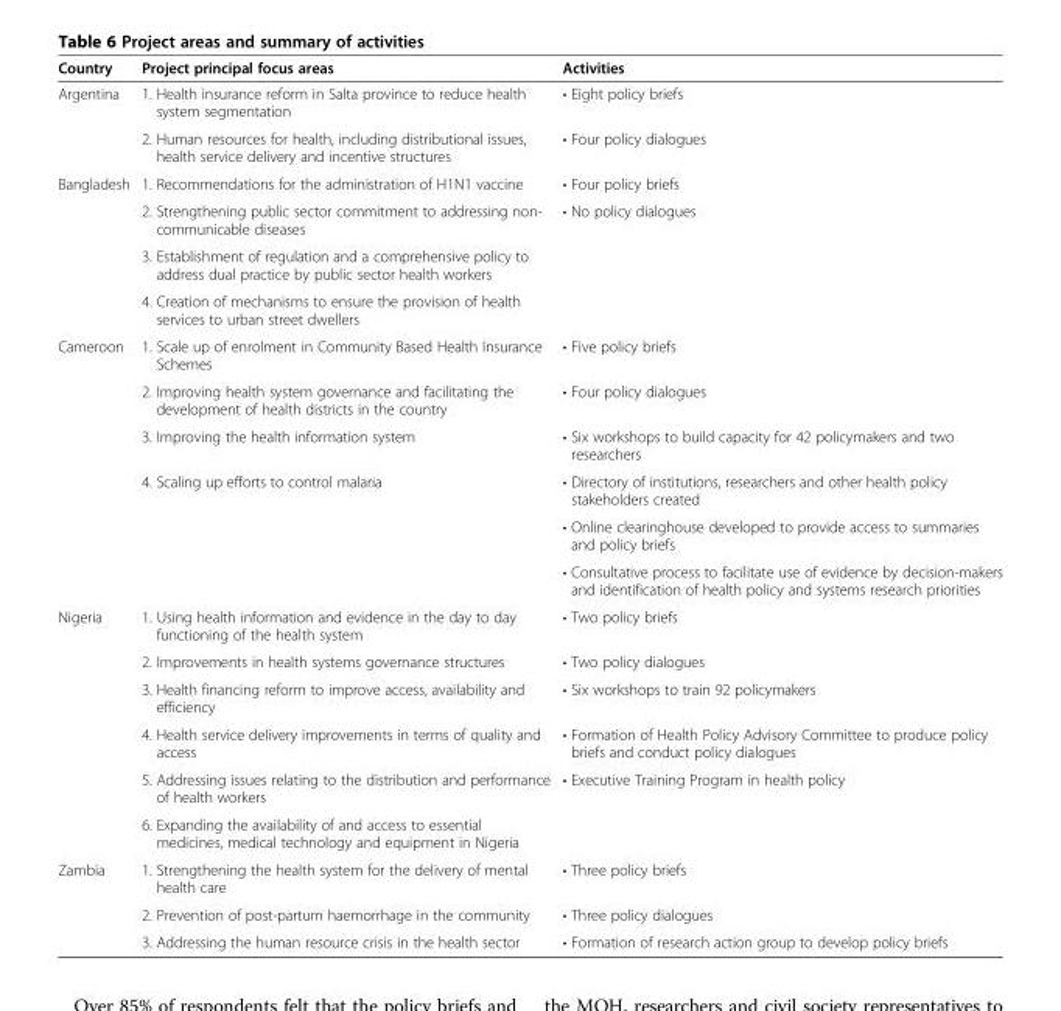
<table><thead><tr><td>Country</td><td>Project principal focus areas</td><td>Activities</td></tr></thead><tbody><tr><td rowspan="2">Argentina</td><td>1. Health insurance reform in Salta province to reduce health system segmentation</td><td>• Eight policy briefs</td></tr><tr><td>2. Human resources for health, including distributional issues, health service delivery and incentive structures</td><td>• Four policy dialogues</td></tr><tr><td rowspan="4">Bangladesh</td><td>1. Recommendations for the administration of H1N1 vaccine</td><td>• Four policy briefs</td></tr><tr><td>2. Strengthening public sector commitment to addressing non- communicable diseases</td><td rowspan="3">• No policy dialogues</td></tr><tr><td>3. Establishment of regulation and a comprehensive policy to address dual practice by public sector health workers</td></tr><tr><td>4. Creation of mechanisms to ensure the provision of health services to urban street dwellers</td></tr><tr><td rowspan="6">Cameroon</td><td>1. Scale up of enrolment in Community Based Health Insurance Schemes</td><td>• Five policy briefs</td></tr><tr><td>2. Improving health system governance and facilitating the development of health districts in the country</td><td>• Four policy dialogues</td></tr><tr><td>3. Improving the health information system</td><td>• Six workshops to build capacity for 42 policymakers and two researchers</td></tr><tr><td rowspan="3">4. Scaling up efforts to control malaria</td><td>• Directory of institutions, researchers and other health policy stakeholders created</td></tr><tr><td>• Online clearinghouse developed to provide access to summaries and policy briefs</td></tr><tr><td>• Consultative process to facilitate use of evidence by decision-makers and identification of health policy and systems research priorities</td></tr><tr><td rowspan="6">Nigeria</td><td>1. Using health information and evidence in the day to day functioning of the health system</td><td>• Two policy briefs</td></tr><tr><td>2. Improvements in health systems governance structures</td><td>• Two policy dialogues</td></tr><tr><td>3. Health financing reform to improve access, availability and efficiency</td><td>• Six workshops to train 92 policymakers</td></tr><tr><td>4. Health service delivery improvements in terms of quality and access</td><td>• Formation of Health Policy Advisory Committee to produce policy briefs and conduct policy dialogues</td></tr><tr><td>5. Addressing issues relating to the distribution and performance of health workers</td><td rowspan="2">• Executive Training Program in health policy</td></tr><tr><td>6. Expanding the availability of and access to essential medicines, medical technology and equipment in Nigeria</td></tr><tr><td rowspan="3">Zambia</td><td>1. Strengthening the health system for the delivery of mental health care</td><td>• Three policy briefs</td></tr><tr><td>2. Prevention of post-partum haemorrhage in the community</td><td>• Three policy dialogues</td></tr><tr><td>3. Addressing the human resource crisis in the health sector</td><td>• Formation of research action group to develop policy briefs</td></tr></tbody></table>